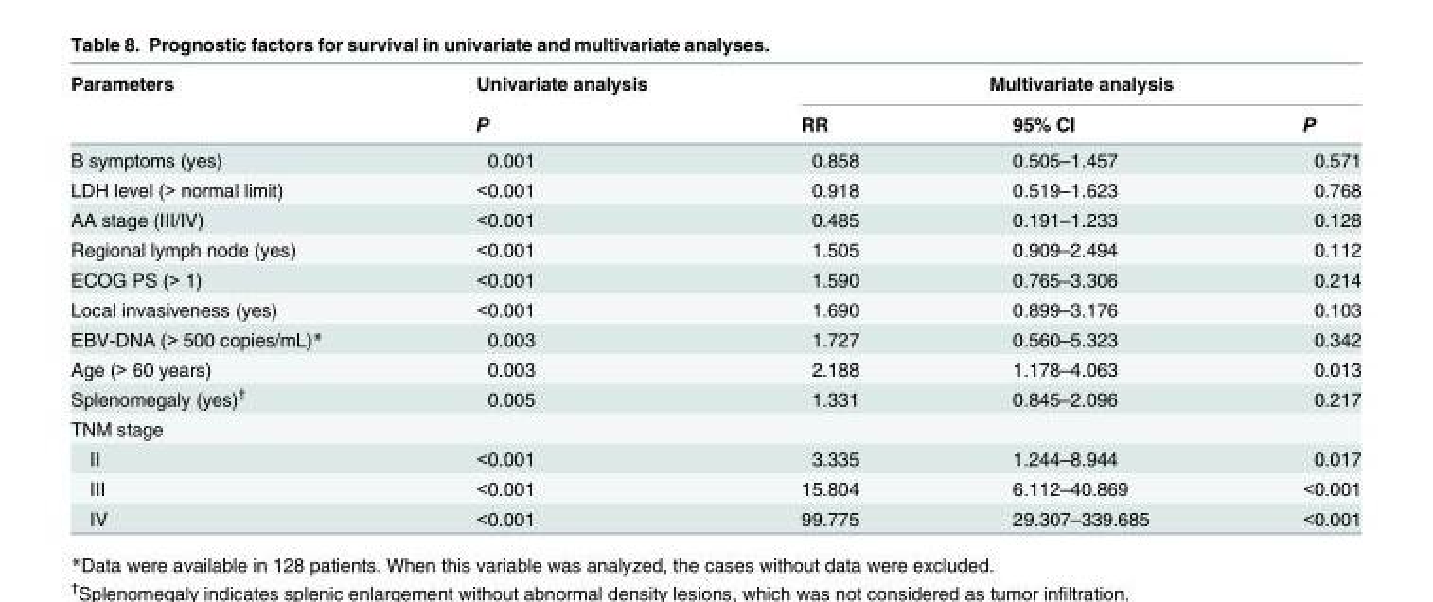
<table><thead><tr><td rowspan="2">Parameters</td><td rowspan="2">Univariate analysis P</td><td colspan="3">Multivariate analysis</td></tr><tr><td>RR</td><td>95% CI</td><td>P</td></tr></thead><tbody><tr><td>B symptoms (yes)</td><td>0.001</td><td>0.858</td><td>0.505–1.457</td><td>0.571</td></tr><tr><td>LDH level (&gt; normal limit)</td><td>&lt;0.001</td><td>0.918</td><td>0.519–1.623</td><td>0.768</td></tr><tr><td>AA stage (III/IV)</td><td>&lt;0.001</td><td>0.485</td><td>0.191–1.233</td><td>0.128</td></tr><tr><td>Regional lymph node (yes)</td><td>&lt;0.001</td><td>1.505</td><td>0.909–2.494</td><td>0.112</td></tr><tr><td>ECOG PS (&gt; 1)</td><td>&lt;0.001</td><td>1.590</td><td>0.765–3.306</td><td>0.214</td></tr><tr><td>Local invasiveness (yes)</td><td>&lt;0.001</td><td>1.690</td><td>0.899–3.176</td><td>0.103</td></tr><tr><td>EBV-DNA (&gt; 500 copies/mL)*</td><td>0.003</td><td>1.727</td><td>0.560–5.323</td><td>0.342</td></tr><tr><td>Age (&gt; 60 years)</td><td>0.003</td><td>2.188</td><td>1.178–4.063</td><td>0.013</td></tr><tr><td>Splenomegaly (yes)<sup>†</sup></td><td>0.005</td><td>1.331</td><td>0.845–2.096</td><td>0.217</td></tr><tr><td colspan="5">TNM stage</td></tr><tr><td>II</td><td>&lt;0.001</td><td>3.335</td><td>1.244–8.944</td><td>0.017</td></tr><tr><td>III</td><td>&lt;0.001</td><td>15.804</td><td>6.112–40.869</td><td>&lt;0.001</td></tr><tr><td>IV</td><td>&lt;0.001</td><td>99.775</td><td>29.307–339.685</td><td>&lt;0.001</td></tr></tbody></table>